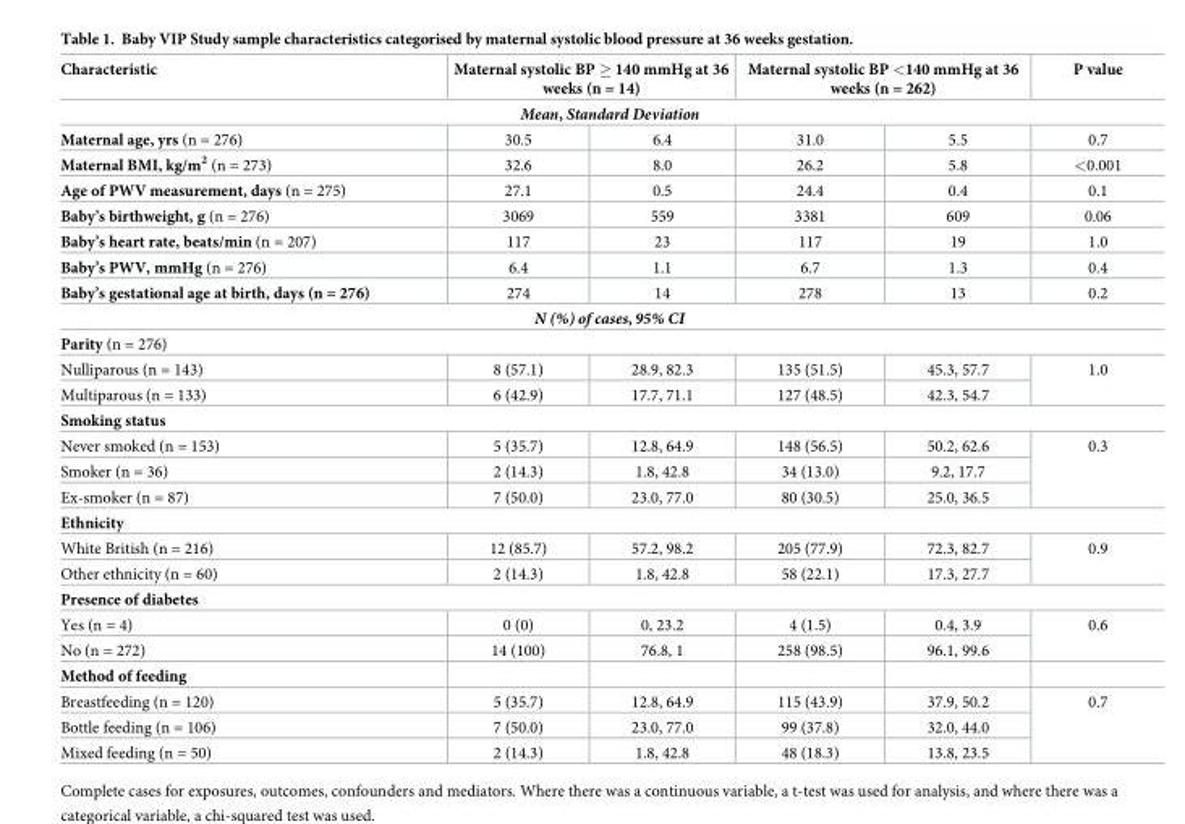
<table><thead><tr><td>Characteristic</td><td colspan="2">Maternal systolic BP ≥ 140 mmHg at 36 weeks (n = 14)</td><td colspan="2">Maternal systolic BP &lt;140 mmHg at 36 weeks (n = 262)</td><td>P value</td></tr><tr><td colspan="6">Mean, Standard Deviation</td></tr><tr><td>Maternal age, yrs (n = 276)</td><td>30.5</td><td>6.4</td><td>31.0</td><td>5.5</td><td>0.7</td></tr></thead><tbody><tr><td>Maternal BMI, kg/m<sup>2</sup> (n = 273)</td><td>32.6</td><td>8.0</td><td>26.2</td><td>5.8</td><td>&lt;0.001</td></tr><tr><td>Age of PWV measurement, days (n = 275)</td><td>27.1</td><td>0.5</td><td>24.4</td><td>0.4</td><td>0.1</td></tr><tr><td>Baby’s birthweight, g (n = 276)</td><td>3069</td><td>559</td><td>3381</td><td>609</td><td>0.06</td></tr><tr><td>Baby’s heart rate, beats/min (n = 207)</td><td>117</td><td>23</td><td>117</td><td>19</td><td>1.0</td></tr><tr><td>Baby’s PWV, mmHg (n = 276)</td><td>6.4</td><td>1.1</td><td>6.7</td><td>1.3</td><td>0.4</td></tr><tr><td>Baby’s gestational age at birth, days (n = 276)</td><td>274</td><td>14</td><td>278</td><td>13</td><td>0.2</td></tr><tr><td colspan="6">N (%) of cases, 95% CI</td></tr><tr><td colspan="6">Parity (n = 276)</td></tr><tr><td>Nulliparous (n = 143)</td><td>8 (57.1)</td><td>28.9, 82.3</td><td>135 (51.5)</td><td>45.3, 57.7</td><td rowspan="2">1.0</td></tr><tr><td>Multiparous (n = 133)</td><td>6 (42.9)</td><td>17.7, 71.1</td><td>127 (48.5)</td><td>42.3, 54.7</td></tr><tr><td colspan="6">Smoking status</td></tr><tr><td>Never smoked (n = 153)</td><td>5 (35.7)</td><td>12.8, 64.9</td><td>148 (56.5)</td><td>50.2, 62.6</td><td rowspan="3">0.3</td></tr><tr><td>Smoker (n = 36)</td><td>2 (14.3)</td><td>1.8, 42.8</td><td>34 (13.0)</td><td>9.2, 17.7</td></tr><tr><td>Ex-smoker (n = 87)</td><td>7 (50.0)</td><td>23.0, 77.0</td><td>80 (30.5)</td><td>25.0, 36.5</td></tr><tr><td colspan="6">Ethnicity</td></tr><tr><td>White British (n = 216)</td><td>12 (85.7)</td><td>57.2, 98.2</td><td>205 (77.9)</td><td>72.3, 82.7</td><td rowspan="2">0.9</td></tr><tr><td>Other ethnicity (n = 60)</td><td>2 (14.3)</td><td>1.8, 42.8</td><td>58 (22.1)</td><td>17.3, 27.7</td></tr><tr><td colspan="6">Presence of diabetes</td></tr><tr><td>Yes (n = 4)</td><td>0 (0)</td><td>0, 23.2</td><td>4 (1.5)</td><td>0.4, 3.9</td><td rowspan="2">0.6</td></tr><tr><td>No (n = 272)</td><td>14 (100)</td><td>76.8, 1</td><td>258 (98.5)</td><td>96.1, 99.6</td></tr><tr><td colspan="6">Method of feeding</td></tr><tr><td>Breastfeeding (n = 120)</td><td>5 (35.7)</td><td>12.8, 64.9</td><td>115 (43.9)</td><td>37.9, 50.2</td><td rowspan="3">0.7</td></tr><tr><td>Bottle feeding (n = 106)</td><td>7 (50.0)</td><td>23.0, 77.0</td><td>99 (37.8)</td><td>32.0, 44.0</td></tr><tr><td>Mixed feeding (n = 50)</td><td>2 (14.3)</td><td>1.8, 42.8</td><td>48 (18.3)</td><td>13.8, 23.5</td></tr></tbody></table>